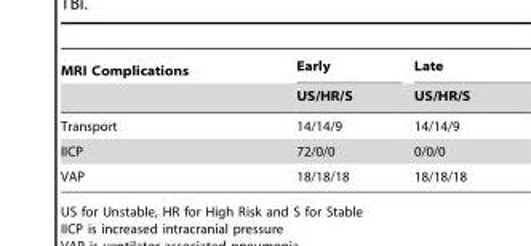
<table><thead><tr><td rowspan="2">MRI Complications</td><td rowspan="2">Early US/HR/S</td><td rowspan="2">Late US/HR/S</td></tr><tr></tr></thead><tbody><tr><td>Transport</td><td>14/14/9</td><td>14/14/9</td></tr><tr><td>IICP</td><td>72/0/0</td><td>0/0/0</td></tr><tr><td>VAP</td><td>18/18/18</td><td>18/18/18</td></tr></tbody></table>